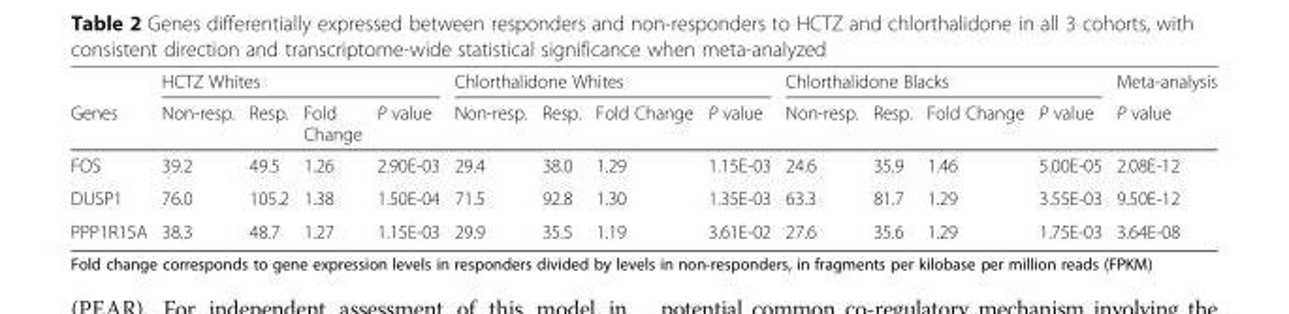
<table><thead><tr><td rowspan="2">Genes</td><td colspan="4">HCTZ Whites</td><td colspan="4">Chlorthalidone Whites</td><td colspan="4">Chlorthalidone Blacks</td><td rowspan="2">Meta-analysis P value</td></tr><tr><td>Non-resp.</td><td>Resp.</td><td>Fold Change</td><td>P value</td><td>Non-resp.</td><td>Resp.</td><td>Fold Change</td><td>P value</td><td>Non-resp.</td><td>Resp.</td><td>Fold Change</td><td>P value</td></tr></thead><tbody><tr><td>FOS</td><td>39.2</td><td>49.5</td><td>1.26</td><td>2.90E-03</td><td>29.4</td><td>38.0</td><td>1.29</td><td>1.15E-03</td><td>24.6</td><td>35.9</td><td>1.46</td><td>5.00E-05</td><td>2.08E-12</td></tr><tr><td>DUSP1</td><td>76.0</td><td>105.2</td><td>1.38</td><td>1.50E-04</td><td>71.5</td><td>92.8</td><td>1.30</td><td>1.35E-03</td><td>63.3</td><td>81.7</td><td>1.29</td><td>3.55E-03</td><td>9.50E-12</td></tr><tr><td>PPP1R15A</td><td>38.3</td><td>48.7</td><td>1.27</td><td>1.15E-03</td><td>29.9</td><td>35.5</td><td>1.19</td><td>3.61E-02</td><td>27.6</td><td>35.6</td><td>1.29</td><td>1.75E-03</td><td>3.64E-08</td></tr></tbody></table>